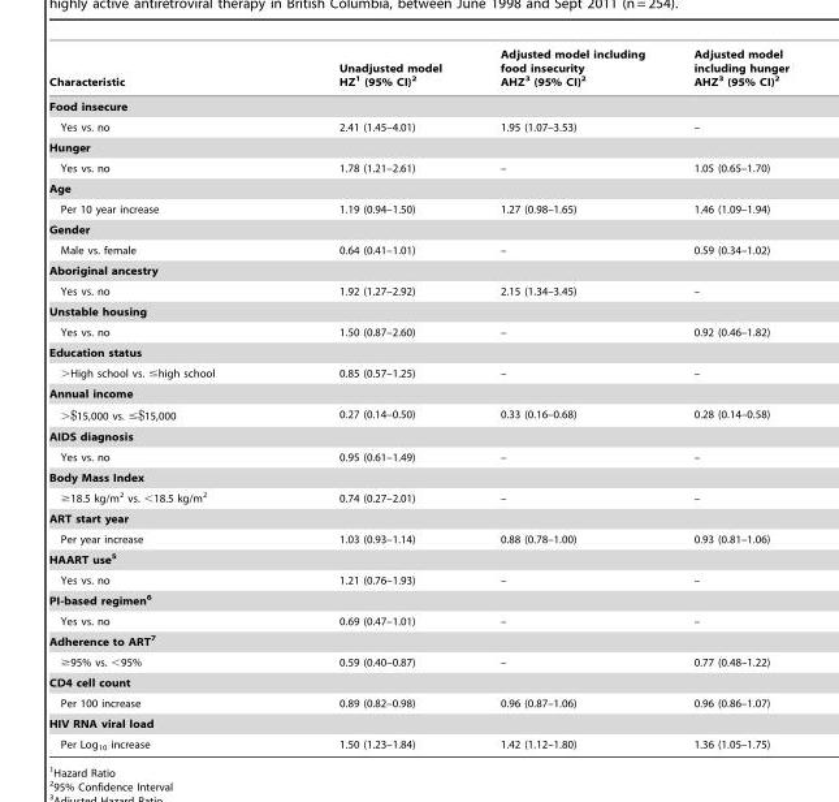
<table><thead><tr><td>Characteristic</td><td>Unadjusted model HZ<sup>1</sup> (95% CI)<sup>2</sup></td><td>Adjusted model including food insecurity AHZ<sup>3</sup> (95% CI)<sup>2</sup></td><td>Adjusted model including hunger AHZ<sup>3</sup> (95% CI)<sup>2</sup></td></tr></thead><tbody><tr><td colspan="4">Food insecure</td></tr><tr><td>Yes vs. no</td><td>2.41 (1.45–4.01)</td><td>1.95 (1.07–3.53)</td><td>–</td></tr><tr><td colspan="4">Hunger</td></tr><tr><td>Yes vs. no</td><td>1.78 (1.21–2.61)</td><td>–</td><td>1.05 (0.65–1.70)</td></tr><tr><td colspan="4">Age</td></tr><tr><td>Per 10 year increase</td><td>1.19 (0.94–1.50)</td><td>1.27 (0.98–1.65)</td><td>1.46 (1.09–1.94)</td></tr><tr><td colspan="4">Gender</td></tr><tr><td>Male vs. female</td><td>0.64 (0.41–1.01)</td><td>–</td><td>0.59 (0.34–1.02)</td></tr><tr><td colspan="4">Aboriginal ancestry</td></tr><tr><td>Yes vs. no</td><td>1.92 (1.27–2.92)</td><td>2.15 (1.34–3.45)</td><td>–</td></tr><tr><td colspan="4">Unstable housing</td></tr><tr><td>Yes vs. no</td><td>1.50 (0.87–2.60)</td><td>–</td><td>0.92 (0.46–1.82)</td></tr><tr><td colspan="4">Education status</td></tr><tr><td>&gt;High school vs. ≤high school</td><td>0.85 (0.57–1.25)</td><td>–</td><td>–</td></tr><tr><td colspan="4">Annual income</td></tr><tr><td>&gt;$15,000 vs. ≤$15,000</td><td>0.27 (0.14–0.50)</td><td>0.33 (0.16–0.68)</td><td>0.28 (0.14–0.58)</td></tr><tr><td colspan="4">AIDS diagnosis</td></tr><tr><td>Yes vs. no</td><td>0.95 (0.61–1.49)</td><td>–</td><td>–</td></tr><tr><td colspan="4">Body Mass Index</td></tr><tr><td>≥18.5 kg/m<sup>2</sup> vs. &lt;18.5 kg/m<sup>2</sup></td><td>0.74 (0.27–2.01)</td><td>–</td><td>–</td></tr><tr><td colspan="4">ART start year</td></tr><tr><td>Per year increase</td><td>1.03 (0.93–1.14)</td><td>0.88 (0.78–1.00)</td><td>0.93 (0.81–1.06)</td></tr><tr><td colspan="4">HAART use<sup>5</sup></td></tr><tr><td>Yes vs. no</td><td>1.21 (0.76–1.93)</td><td>–</td><td>–</td></tr><tr><td colspan="4">PI-based regimen<sup>6</sup></td></tr><tr><td>Yes vs. no</td><td>0.69 (0.47–1.01)</td><td>–</td><td>–</td></tr><tr><td colspan="4">Adherence to ART<sup>7</sup></td></tr><tr><td>≥95% vs. &lt;95%</td><td>0.59 (0.40–0.87)</td><td>–</td><td>0.77 (0.48–1.22)</td></tr><tr><td colspan="4">CD4 cell count</td></tr><tr><td>Per 100 increase</td><td>0.89 (0.82–0.98)</td><td>0.96 (0.87–1.06)</td><td>0.96 (0.86–1.07)</td></tr><tr><td colspan="4">HIV RNA viral load</td></tr><tr><td>Per Log<sub>10</sub> increase</td><td>1.50 (1.23–1.84)</td><td>1.42 (1.12–1.80)</td><td>1.36 (1.05–1.75)</td></tr></tbody></table>